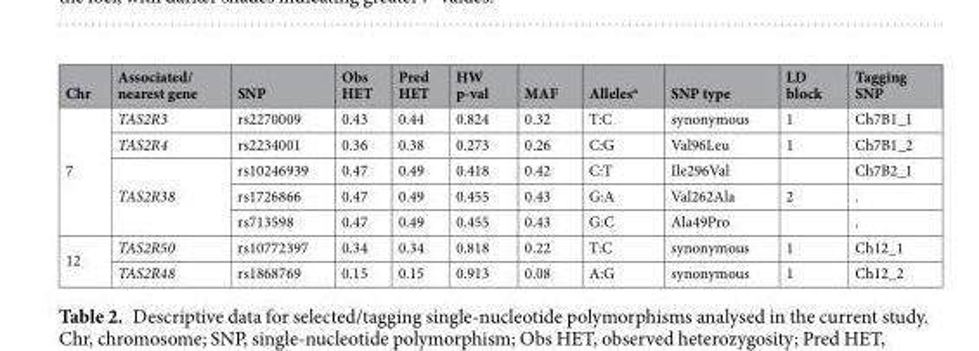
<table><thead><tr><td>Chr</td><td>Associated/ nearest gene</td><td>SNP</td><td>Obs HET</td><td>Pred HET</td><td>HW p-val</td><td>MAF</td><td>Alleles<sup>a</sup></td><td>SNP type</td><td>LD block</td><td>Tagging SNP</td></tr></thead><tbody><tr><td rowspan="5">7</td><td>TAS2R3</td><td>rs2270009</td><td>0.43</td><td>0.44</td><td>0.824</td><td>0.32</td><td>T:C</td><td>synonymous</td><td>1</td><td>Ch7B1_1</td></tr><tr><td>TAS2R4</td><td>rs2234001</td><td>0.36</td><td>0.38</td><td>0.273</td><td>0.26</td><td>C:G</td><td>Val96Leu</td><td>1</td><td>Ch7B1_2</td></tr><tr><td rowspan="3">TAS2R38</td><td>rs10246939</td><td>0.47</td><td>0.49</td><td>0.418</td><td>0.42</td><td>C:T</td><td>Ile296Val</td><td></td><td>Ch7B2_1</td></tr><tr><td>rs1726866</td><td>0.47</td><td>0.49</td><td>0.455</td><td>0.43</td><td>G:A</td><td>Val262Ala</td><td>2</td><td>.</td></tr><tr><td>rs713598</td><td>0.47</td><td>0.49</td><td>0.455</td><td>0.43</td><td>G:C</td><td>Ala49Pro</td><td></td><td>.</td></tr><tr><td rowspan="2">12</td><td>TAS2R50</td><td>rs10772397</td><td>0.34</td><td>0.34</td><td>0.818</td><td>0.22</td><td>T:C</td><td>synonymous</td><td>1</td><td>Ch12_1</td></tr><tr><td>TAS2R48</td><td>rs1868769</td><td>0.15</td><td>0.15</td><td>0.913</td><td>0.08</td><td>A:G</td><td>synonymous</td><td>1</td><td>Ch12_2</td></tr></tbody></table>